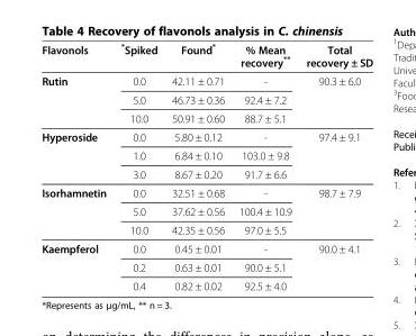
<table><thead><tr><td>Flavonols</td><td>*Spiked</td><td>Found*</td><td>% Mean recovery**</td><td>Total recovery ± SD</td></tr></thead><tbody><tr><td rowspan="3">Rutin</td><td>0.0</td><td>42.11 ± 0.71</td><td>-</td><td rowspan="3">90.3 ± 6.0</td></tr><tr><td>5.0</td><td>46.73 ± 0.36</td><td>92.4 ± 7.2</td></tr><tr><td>10.0</td><td>50.91 ± 0.60</td><td>88.7 ± 5.1</td></tr><tr><td rowspan="3">Hyperoside</td><td>0.0</td><td>5.80 ± 0.12</td><td>-</td><td rowspan="3">97.4 ± 9.1</td></tr><tr><td>1.0</td><td>6.84 ± 0.10</td><td>103.0 ± 9.8</td></tr><tr><td>3.0</td><td>8.67 ± 0.20</td><td>91.7 ± 6.6</td></tr><tr><td rowspan="3">Isorhamnetin</td><td>0.0</td><td>32.51 ± 0.68</td><td>-</td><td rowspan="3">98.7 ± 7.9</td></tr><tr><td>5.0</td><td>37.62 ± 0.56</td><td>100.4 ± 10.9</td></tr><tr><td>10.0</td><td>42.35 ± 0.56</td><td>97.0 ± 5.5</td></tr><tr><td rowspan="3">Kaempferol</td><td>0.0</td><td>0.45 ± 0.01</td><td>-</td><td rowspan="3">90.0 ± 4.1</td></tr><tr><td>0.2</td><td>0.63 ± 0.01</td><td>90.0 ± 5.1</td></tr><tr><td>0.4</td><td>0.82 ± 0.02</td><td>92.5 ± 4.0</td></tr></tbody></table>